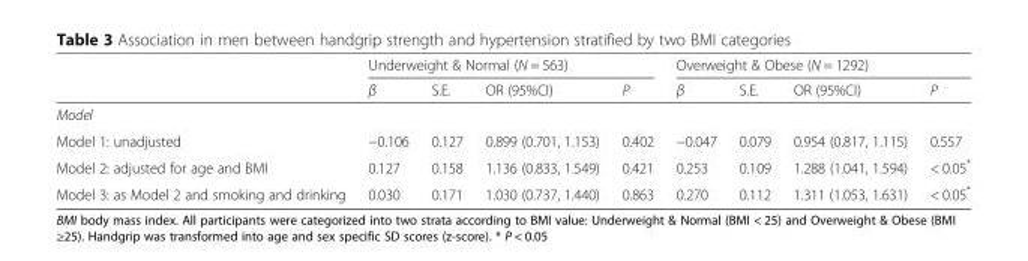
<table><thead><tr><td rowspan="2"></td><td colspan="4">Underweight &amp; Normal (N = 563)</td><td colspan="4">Overweight &amp; Obese (N = 1292)</td></tr><tr><td>β</td><td>S.E.</td><td>OR (95%CI)</td><td>P</td><td>β</td><td>S.E.</td><td>OR (95%CI)</td><td>P</td></tr></thead><tbody><tr><td colspan="9">Model</td></tr><tr><td>Model 1: unadjusted</td><td>−0.106</td><td>0.127</td><td>0.899 (0.701, 1.153)</td><td>0.402</td><td>−0.047</td><td>0.079</td><td>0.954 (0.817, 1.115)</td><td>0.557</td></tr><tr><td>Model 2: adjusted for age and BMI</td><td>0.127</td><td>0.158</td><td>1.136 (0.833, 1.549)</td><td>0.421</td><td>0.253</td><td>0.109</td><td>1.288 (1.041, 1.594)</td><td>&lt; 0.05*</td></tr><tr><td>Model 3: as Model 2 and smoking and drinking</td><td>0.030</td><td>0.171</td><td>1.030 (0.737, 1.440)</td><td>0.863</td><td>0.270</td><td>0.112</td><td>1.311 (1.053, 1.631)</td><td>&lt; 0.05*</td></tr></tbody></table>